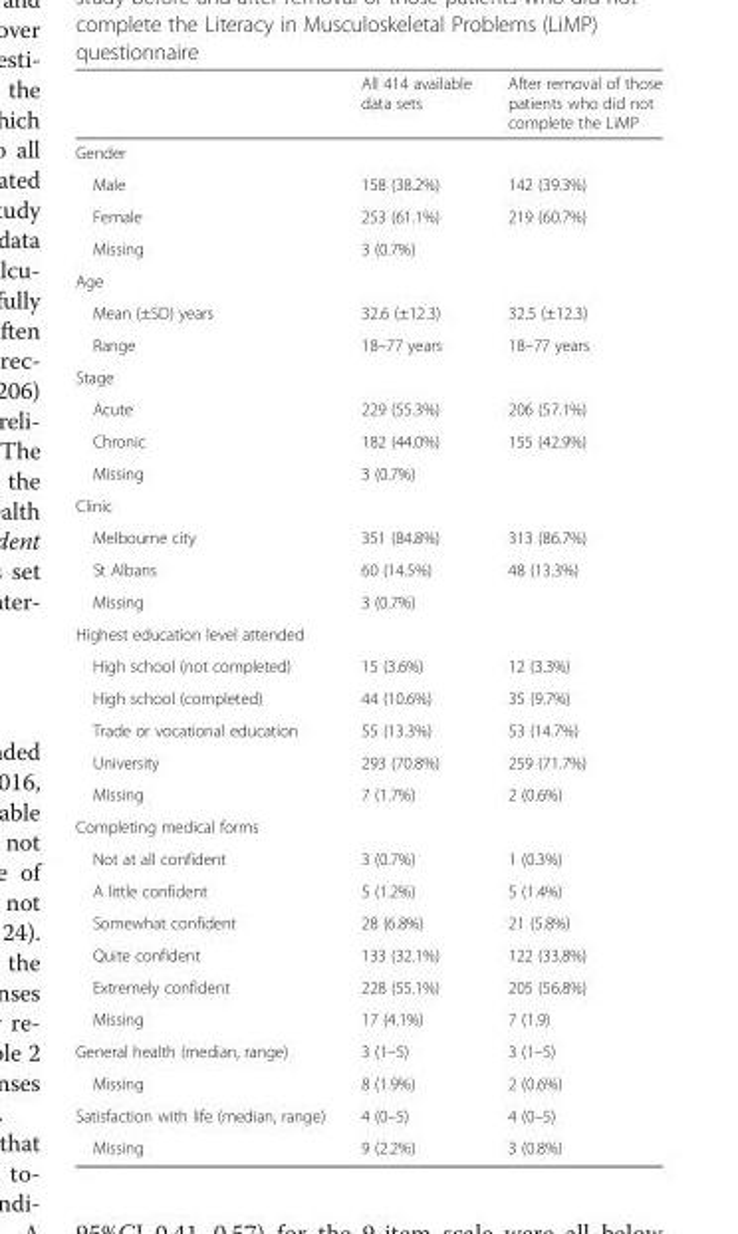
<table><thead><tr><td></td><td>All 414 available data sets</td><td>After removal of those patients who did not complete the LiMP</td></tr></thead><tbody><tr><td colspan="3">Gender</td></tr><tr><td>Male</td><td>158 (38.2%)</td><td>142 (39.3%)</td></tr><tr><td>Female</td><td>253 (61.1%)</td><td>219 (60.7%)</td></tr><tr><td>Missing</td><td>3 (0.7%)</td><td></td></tr><tr><td colspan="3">Age</td></tr><tr><td>Mean (±SD) years</td><td>32.6 (±12.3)</td><td>32.5 (±12.3)</td></tr><tr><td>Range</td><td>18–77 years</td><td>18–77 years</td></tr><tr><td colspan="3">Stage</td></tr><tr><td>Acute</td><td>229 (55.3%)</td><td>206 (57.1%)</td></tr><tr><td>Chronic</td><td>182 (44.0%)</td><td>155 (42.9%)</td></tr><tr><td>Missing</td><td>3 (0.7%)</td><td></td></tr><tr><td colspan="3">Clinic</td></tr><tr><td>Melbourne city</td><td>351 (84.8%)</td><td>313 (86.7%)</td></tr><tr><td>St Albans</td><td>60 (14.5%)</td><td>48 (13.3%)</td></tr><tr><td>Missing</td><td>3 (0.7%)</td><td></td></tr><tr><td colspan="3">Highest education level attended</td></tr><tr><td>High school (not completed)</td><td>15 (3.6%)</td><td>12 (3.3%)</td></tr><tr><td>High school (completed)</td><td>44 (10.6%)</td><td>35 (9.7%)</td></tr><tr><td>Trade or vocational education</td><td>55 (13.3%)</td><td>53 (14.7%)</td></tr><tr><td>University</td><td>293 (70.8%)</td><td>259 (71.7%)</td></tr><tr><td>Missing</td><td>7 (1.7%)</td><td>2 (0.6%)</td></tr><tr><td colspan="3">Completing medical forms</td></tr><tr><td>Not at all confident</td><td>3 (0.7%)</td><td>1 (0.3%)</td></tr><tr><td>A little confident</td><td>5 (1.2%)</td><td>5 (1.4%)</td></tr><tr><td>Somewhat confident</td><td>28 (6.8%)</td><td>21 (5.8%)</td></tr><tr><td>Quite confident</td><td>133 (32.1%)</td><td>122 (33.8%)</td></tr><tr><td>Extremely confident</td><td>228 (55.1%)</td><td>205 (56.8%)</td></tr><tr><td>Missing</td><td>17 (4.1%)</td><td>7 (1.9)</td></tr><tr><td>General health (median, range)</td><td>3 (1–5)</td><td>3 (1–5)</td></tr><tr><td>Missing</td><td>8 (1.9%)</td><td>2 (0.6%)</td></tr><tr><td>Satisfaction with life (median, range)</td><td>4 (0–5)</td><td>4 (0–5)</td></tr><tr><td>Missing</td><td>9 (2.2%)</td><td>3 (0.8%)</td></tr></tbody></table>